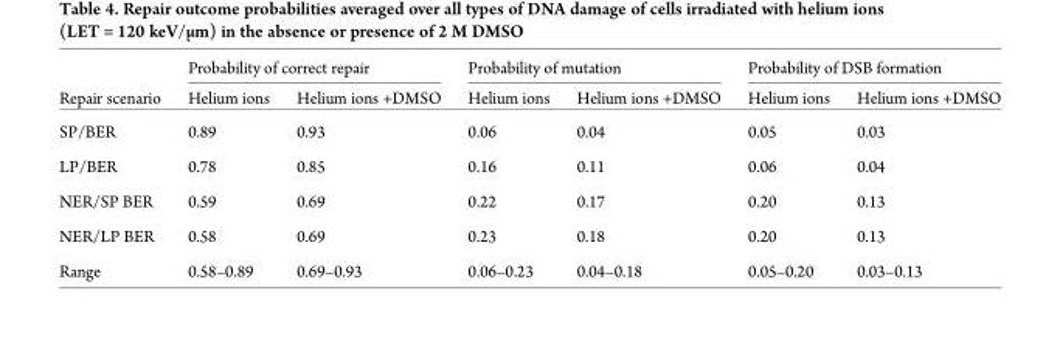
<table><thead><tr><td rowspan="2">Repair scenario</td><td colspan="2">Probability of correct repair</td><td colspan="2">Probability of mutation</td><td colspan="2">Probability of DSB formation</td></tr><tr><td>Helium ions</td><td>Helium ions +DMSO</td><td>Helium ions</td><td>Helium ions +DMSO</td><td>Helium ions</td><td>Helium ions +DMSO</td></tr></thead><tbody><tr><td>SP/BER</td><td>0.89</td><td>0.93</td><td>0.06</td><td>0.04</td><td>0.05</td><td>0.03</td></tr><tr><td>LP/BER</td><td>0.78</td><td>0.85</td><td>0.16</td><td>0.11</td><td>0.06</td><td>0.04</td></tr><tr><td>NER/SP BER</td><td>0.59</td><td>0.69</td><td>0.22</td><td>0.17</td><td>0.20</td><td>0.13</td></tr><tr><td>NER/LP BER</td><td>0.58</td><td>0.69</td><td>0.23</td><td>0.18</td><td>0.20</td><td>0.13</td></tr><tr><td>Range</td><td>0.58–0.89</td><td>0.69–0.93</td><td>0.06–0.23</td><td>0.04–0.18</td><td>0.05–0.20</td><td>0.03–0.13</td></tr></tbody></table>